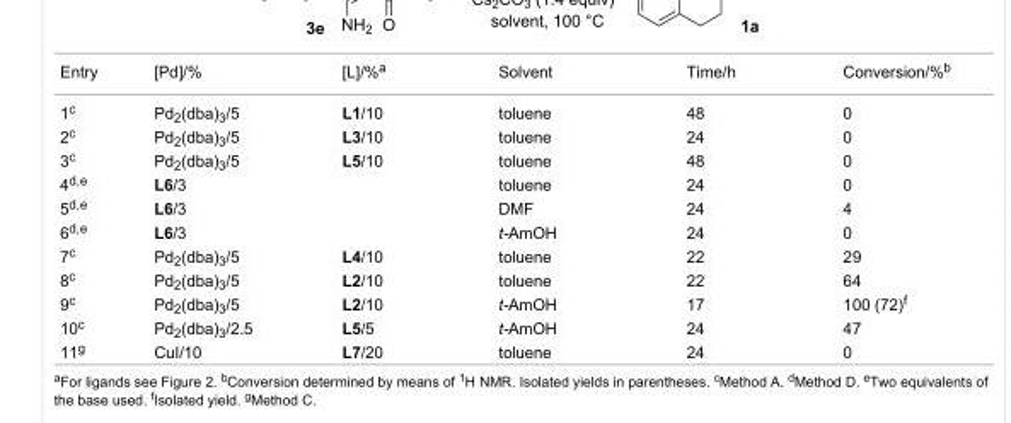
<table><tbody><tr><td>Entry</td><td>[Pd]/%</td><td>[L]/%<sup>a</sup></td><td>Solvent</td><td>Time/h</td><td>Conversion/%<sup>b</sup></td></tr><tr><td>1<sup>c</sup></td><td>Pd<sub>2</sub>(dba)<sub>3</sub>/5</td><td>L1/10</td><td>toluene</td><td>48</td><td>0</td></tr><tr><td>2<sup>c</sup></td><td>Pd<sub>2</sub>(dba)<sub>3</sub>/5</td><td>L3/10</td><td>toluene</td><td>24</td><td>0</td></tr><tr><td>3<sup>c</sup></td><td>Pd<sub>2</sub>(dba)<sub>3</sub>/5</td><td>L5/10</td><td>toluene</td><td>48</td><td>0</td></tr><tr><td>4<sup>d,e</sup></td><td colspan="2">L6/3</td><td>toluene</td><td>24</td><td>0</td></tr><tr><td>5<sup>d,e</sup></td><td colspan="2">L6/3</td><td>DMF</td><td>24</td><td>4</td></tr><tr><td>6<sup>d,e</sup></td><td colspan="2">L6/3</td><td>t-AmOH</td><td>24</td><td>0</td></tr><tr><td>7<sup>c</sup></td><td>Pd<sub>2</sub>(dba)<sub>3</sub>/5</td><td>L4/10</td><td>toluene</td><td>22</td><td>29</td></tr><tr><td>8<sup>c</sup></td><td>Pd<sub>2</sub>(dba)<sub>3</sub>/5</td><td>L2/10</td><td>toluene</td><td>22</td><td>64</td></tr><tr><td>9<sup>c</sup></td><td>Pd<sub>2</sub>(dba)<sub>3</sub>/5</td><td>L2/10</td><td>t-AmOH</td><td>17</td><td>100 (72)<sup>f</sup></td></tr><tr><td>10<sup>c</sup></td><td>Pd<sub>2</sub>(dba)<sub>3</sub>/2.5</td><td>L5/5</td><td>t-AmOH</td><td>24</td><td>47</td></tr><tr><td>11<sup>g</sup></td><td>CuI/10</td><td>L7/20</td><td>toluene</td><td>24</td><td>0</td></tr></tbody></table>